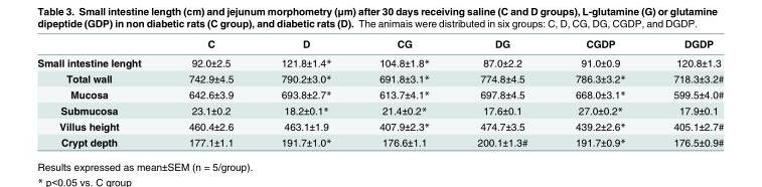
<table><thead><tr><td></td><td>C</td><td>D</td><td>CG</td><td>DG</td><td>CGDP</td><td>DGDP</td></tr></thead><tbody><tr><td>Small intestine lenght</td><td>92.0±2.5</td><td>121.8±1.4*</td><td>104.8±1.8*</td><td>87.0±2.2</td><td>91.0±0.9</td><td>120.8±1.3</td></tr><tr><td>Total wall</td><td>742.9±4.5</td><td>790.2±3.0*</td><td>691.8±3.1*</td><td>774.8±4.5</td><td>786.3±3.2*</td><td>718.3±3.2#</td></tr><tr><td>Mucosa</td><td>642.6±3.9</td><td>693.8±2.7*</td><td>613.7±4.1*</td><td>697.8±4.5</td><td>668.0±3.1*</td><td>599.5±4.0#</td></tr><tr><td>Submucosa</td><td>23.1±0.2</td><td>18.2±0.1*</td><td>21.4±0.2*</td><td>17.6±0.1</td><td>27.0±0.2*</td><td>17.9±0.1</td></tr><tr><td>Villus height</td><td>460.4±2.6</td><td>463.1±1.9</td><td>407.9±2.3*</td><td>474.7±3.5</td><td>439.2±2.6*</td><td>405.1±2.7#</td></tr><tr><td>Crypt depth</td><td>177.1±1.1</td><td>191.7±1.0*</td><td>176.6±1.1</td><td>200.1±1.3#</td><td>191.7±0.9*</td><td>176.5±0.9#</td></tr></tbody></table>